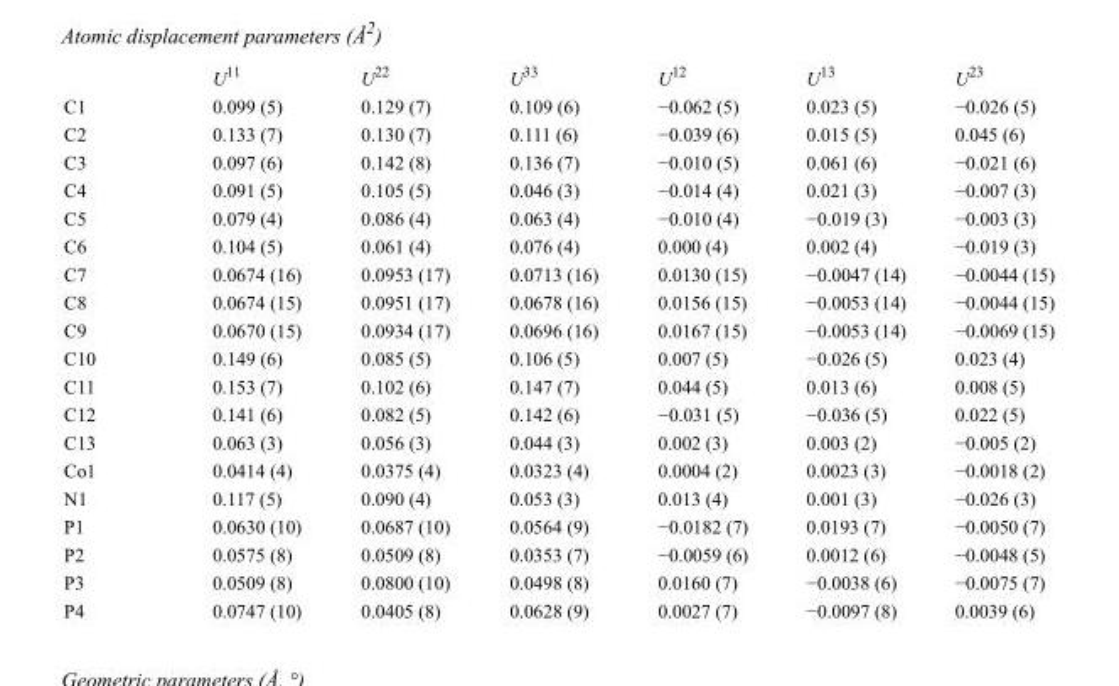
<table><thead><tr><td></td><td>U<sup>11</sup></td><td>U<sup>22</sup></td><td>U<sup>33</sup></td><td>U<sup>12</sup></td><td>U<sup>13</sup></td><td>U<sup>23</sup></td></tr></thead><tbody><tr><td>C1</td><td>0.099 (5)</td><td>0.129 (7)</td><td>0.109 (6)</td><td>−0.062 (5)</td><td>0.023 (5)</td><td>−0.026 (5)</td></tr><tr><td>C2</td><td>0.133 (7)</td><td>0.130 (7)</td><td>0.111 (6)</td><td>−0.039 (6)</td><td>0.015 (5)</td><td>0.045 (6)</td></tr><tr><td>C3</td><td>0.097 (6)</td><td>0.142 (8)</td><td>0.136 (7)</td><td>−0.010 (5)</td><td>0.061 (6)</td><td>−0.021 (6)</td></tr><tr><td>C4</td><td>0.091 (5)</td><td>0.105 (5)</td><td>0.046 (3)</td><td>−0.014 (4)</td><td>0.021 (3)</td><td>−0.007 (3)</td></tr><tr><td>C5</td><td>0.079 (4)</td><td>0.086 (4)</td><td>0.063 (4)</td><td>−0.010 (4)</td><td>−0.019 (3)</td><td>−0.003 (3)</td></tr><tr><td>C6</td><td>0.104 (5)</td><td>0.061 (4)</td><td>0.076 (4)</td><td>0.000 (4)</td><td>0.002 (4)</td><td>−0.019 (3)</td></tr><tr><td>C7</td><td>0.0674 (16)</td><td>0.0953 (17)</td><td>0.0713 (16)</td><td>0.0130 (15)</td><td>−0.0047 (14)</td><td>−0.0044 (15)</td></tr><tr><td>C8</td><td>0.0674 (15)</td><td>0.0951 (17)</td><td>0.0678 (16)</td><td>0.0156 (15)</td><td>−0.0053 (14)</td><td>−0.0044 (15)</td></tr><tr><td>C9</td><td>0.0670 (15)</td><td>0.0934 (17)</td><td>0.0696 (16)</td><td>0.0167 (15)</td><td>−0.0053 (14)</td><td>−0.0069 (15)</td></tr><tr><td>C10</td><td>0.149 (6)</td><td>0.085 (5)</td><td>0.106 (5)</td><td>0.007 (5)</td><td>−0.026 (5)</td><td>0.023 (4)</td></tr><tr><td>C11</td><td>0.153 (7)</td><td>0.102 (6)</td><td>0.147 (7)</td><td>0.044 (5)</td><td>0.013 (6)</td><td>0.008 (5)</td></tr><tr><td>C12</td><td>0.141 (6)</td><td>0.082 (5)</td><td>0.142 (6)</td><td>−0.031 (5)</td><td>−0.036 (5)</td><td>0.022 (5)</td></tr><tr><td>C13</td><td>0.063 (3)</td><td>0.056 (3)</td><td>0.044 (3)</td><td>0.002 (3)</td><td>0.003 (2)</td><td>−0.005 (2)</td></tr><tr><td>Co1</td><td>0.0414 (4)</td><td>0.0375 (4)</td><td>0.0323 (4)</td><td>0.0004 (2)</td><td>0.0023 (3)</td><td>−0.0018 (2)</td></tr><tr><td>N1</td><td>0.117 (5)</td><td>0.090 (4)</td><td>0.053 (3)</td><td>0.013 (4)</td><td>0.001 (3)</td><td>−0.026 (3)</td></tr><tr><td>P1</td><td>0.0630 (10)</td><td>0.0687 (10)</td><td>0.0564 (9)</td><td>−0.0182 (7)</td><td>0.0193 (7)</td><td>−0.0050 (7)</td></tr><tr><td>P2</td><td>0.0575 (8)</td><td>0.0509 (8)</td><td>0.0353 (7)</td><td>−0.0059 (6)</td><td>0.0012 (6)</td><td>−0.0048 (5)</td></tr><tr><td>P3</td><td>0.0509 (8)</td><td>0.0800 (10)</td><td>0.0498 (8)</td><td>0.0160 (7)</td><td>−0.0038 (6)</td><td>−0.0075 (7)</td></tr><tr><td>P4</td><td>0.0747 (10)</td><td>0.0405 (8)</td><td>0.0628 (9)</td><td>0.0027 (7)</td><td>−0.0097 (8)</td><td>0.0039 (6)</td></tr></tbody></table>